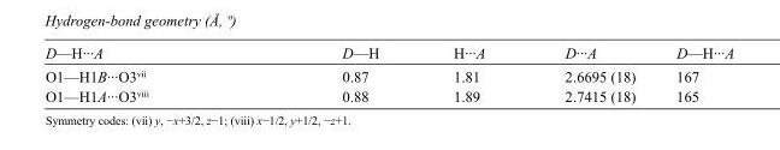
<table><tbody><tr><td>D—H···A</td><td>D—H</td><td>H···A</td><td>D···A</td><td>D—H···A</td></tr><tr><td>O1—H1B···O3<sup>vii</sup></td><td>0.87</td><td>1.81</td><td>2.6695 (18)</td><td>167</td></tr><tr><td>O1—H1A···O3<sup>viii</sup></td><td>0.88</td><td>1.89</td><td>2.7415 (18)</td><td>165</td></tr></tbody></table>